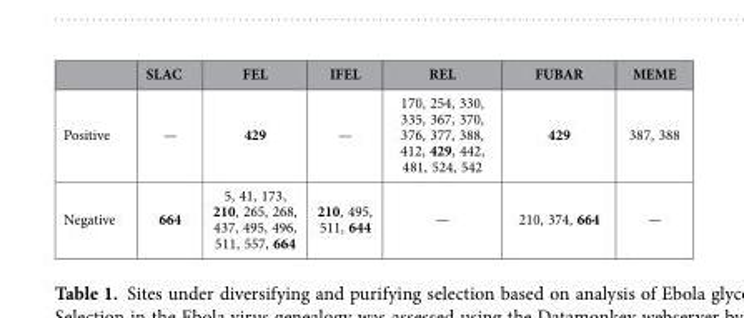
<table><thead><tr><td></td><td>SLAC</td><td>FEL</td><td>IFEL</td><td>REL</td><td>FUBAR</td><td>MEME</td></tr></thead><tbody><tr><td>Positive</td><td>—</td><td>429</td><td>—</td><td>170, 254, 330, 335, 367, 370, 376, 377, 388, 412, 429, 442, 481, 524, 542</td><td>429</td><td>387, 388</td></tr><tr><td>Negative</td><td>664</td><td>5, 41, 173, 210, 265, 268, 437, 495, 496, 511, 557, 664</td><td>210, 495, 511, 644</td><td>—</td><td>210, 374, 664</td><td>—</td></tr></tbody></table>